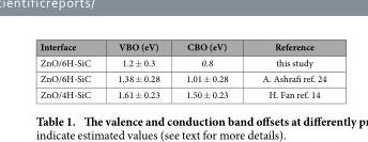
<table><thead><tr><td>Interface</td><td>VBO (eV)</td><td>CBO (eV)</td><td>Reference</td></tr></thead><tbody><tr><td>ZnO/6H-SiC</td><td>1.2 ± 0.3</td><td>0.8</td><td>this study</td></tr><tr><td>ZnO/6H-SiC</td><td>1.38 ± 0.28</td><td>1.01 ± 0.28</td><td>A. Ashrafi ref. 24</td></tr><tr><td>ZnO/4H-SiC</td><td>1.61 ± 0.23</td><td>1.50 ± 0.23</td><td>H. Fan ref. 14</td></tr></tbody></table>